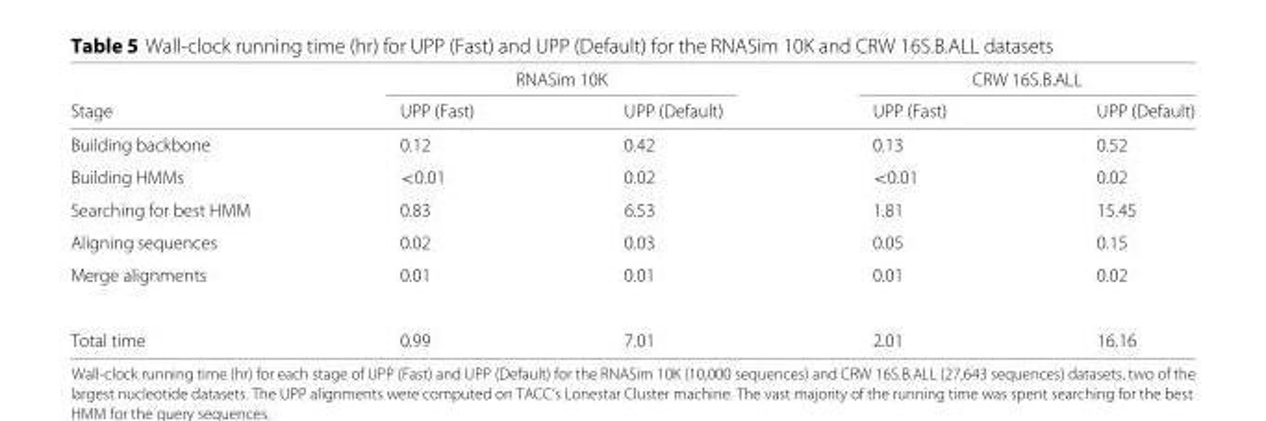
<table><thead><tr><td rowspan="2">Stage</td><td colspan="2">RNASim 10K</td><td colspan="2">CRW 16S.B.ALL</td></tr><tr><td>UPP (Fast)</td><td>UPP (Default)</td><td>UPP (Fast)</td><td>UPP (Default)</td></tr></thead><tbody><tr><td>Building backbone</td><td>0.12</td><td>0.42</td><td>0.13</td><td>0.52</td></tr><tr><td>Building HMMs</td><td>&lt;0.01</td><td>0.02</td><td>&lt;0.01</td><td>0.02</td></tr><tr><td>Searching for best HMM</td><td>0.83</td><td>6.53</td><td>1.81</td><td>15.45</td></tr><tr><td>Aligning sequences</td><td>0.02</td><td>0.03</td><td>0.05</td><td>0.15</td></tr><tr><td>Merge alignments</td><td>0.01</td><td>0.01</td><td>0.01</td><td>0.02</td></tr><tr><td>Total time</td><td>0.99</td><td>7.01</td><td>2.01</td><td>16.16</td></tr></tbody></table>